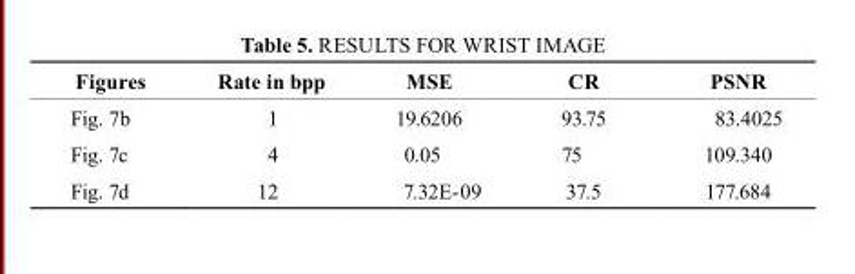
<table><thead><tr><td>Figures</td><td>rate in bpp</td><td>MsE</td><td>cr</td><td>PSNR</td></tr></thead><tbody><tr><td>Fig. 7b</td><td>1</td><td>19.6206</td><td>93.75</td><td>83.4025</td></tr><tr><td>Fig. 7c</td><td>4</td><td>0.05</td><td>75</td><td>109.340</td></tr><tr><td>Fig. 7d</td><td>12</td><td>7.32E-09</td><td>37.5</td><td>177.684</td></tr></tbody></table>